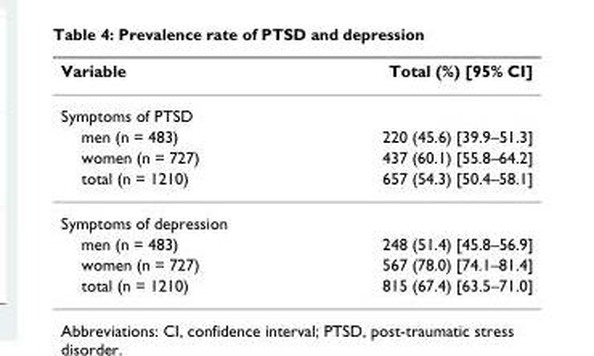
<table><thead><tr><td>Variable</td><td>Total (%) [95% CI]</td></tr></thead><tbody><tr><td colspan="2">Symptoms of PTSD</td></tr><tr><td>men (n = 483)</td><td>220 (45.6) [39.9–51.3]</td></tr><tr><td>women (n = 727)</td><td>437 (60.1) [55.8–64.2]</td></tr><tr><td>total (n = 1210)</td><td>657 (54.3) [50.4–58.1]</td></tr><tr><td colspan="2">Symptoms of depression</td></tr><tr><td>men (n = 483)</td><td>248 (51.4) [45.8–56.9]</td></tr><tr><td>women (n = 727)</td><td>567 (78.0) [74.1–81.4]</td></tr><tr><td>total (n = 1210)</td><td>815 (67.4) [63.5–71.0]</td></tr></tbody></table>